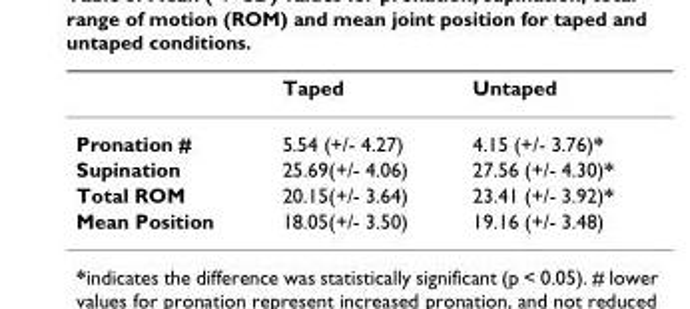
<table><thead><tr><td></td><td>Taped</td><td>Untaped</td></tr></thead><tbody><tr><td>Pronation #</td><td>5.54 (+/- 4.27)</td><td>4.15 (+/- 3.76)*</td></tr><tr><td>Supination</td><td>25.69(+/- 4.06)</td><td>27.56 (+/- 4.30)*</td></tr><tr><td>Total ROM</td><td>20.15(+/- 3.64)</td><td>23.41 (+/- 3.92)*</td></tr><tr><td>Mean Position</td><td>18.05(+/- 3.50)</td><td>19.16 (+/- 3.48)</td></tr></tbody></table>